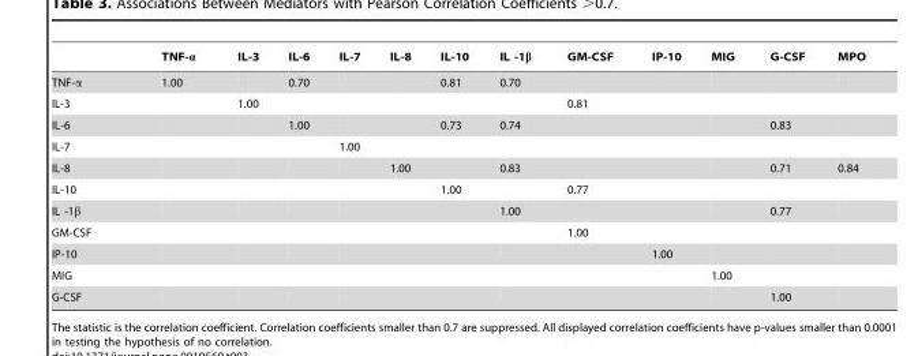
<table><thead><tr><td></td><td>TNF-α</td><td>IL-3</td><td>IL-6</td><td>IL-7</td><td>IL-8</td><td>IL-10</td><td>IL -1β</td><td>GM-CSF</td><td>IP-10</td><td>MIG</td><td>G-CSF</td><td>MPO</td></tr></thead><tbody><tr><td>TNF-α</td><td>1.00</td><td></td><td>0.70</td><td></td><td></td><td>0.81</td><td>0.70</td><td></td><td></td><td></td><td></td><td></td></tr><tr><td>IL-3</td><td></td><td>1.00</td><td></td><td></td><td></td><td></td><td></td><td>0.81</td><td></td><td></td><td></td><td></td></tr><tr><td>IL-6</td><td></td><td></td><td>1.00</td><td></td><td></td><td>0.73</td><td>0.74</td><td></td><td></td><td></td><td>0.83</td><td></td></tr><tr><td>IL-7</td><td></td><td></td><td></td><td>1.00</td><td></td><td></td><td></td><td></td><td></td><td></td><td></td><td></td></tr><tr><td>IL-8</td><td></td><td></td><td></td><td></td><td>1.00</td><td></td><td>0.83</td><td></td><td></td><td></td><td>0.71</td><td>0.84</td></tr><tr><td>IL-10</td><td></td><td></td><td></td><td></td><td></td><td>1.00</td><td></td><td>0.77</td><td></td><td></td><td></td><td></td></tr><tr><td>IL -1β</td><td></td><td></td><td></td><td></td><td></td><td></td><td>1.00</td><td></td><td></td><td></td><td>0.77</td><td></td></tr><tr><td>GM-CSF</td><td></td><td></td><td></td><td></td><td></td><td></td><td></td><td>1.00</td><td></td><td></td><td></td><td></td></tr><tr><td>IP-10</td><td></td><td></td><td></td><td></td><td></td><td></td><td></td><td></td><td>1.00</td><td></td><td></td><td></td></tr><tr><td>MIG</td><td></td><td></td><td></td><td></td><td></td><td></td><td></td><td></td><td></td><td>1.00</td><td></td><td></td></tr><tr><td>G-CSF</td><td></td><td></td><td></td><td></td><td></td><td></td><td></td><td></td><td></td><td></td><td>1.00</td><td></td></tr></tbody></table>